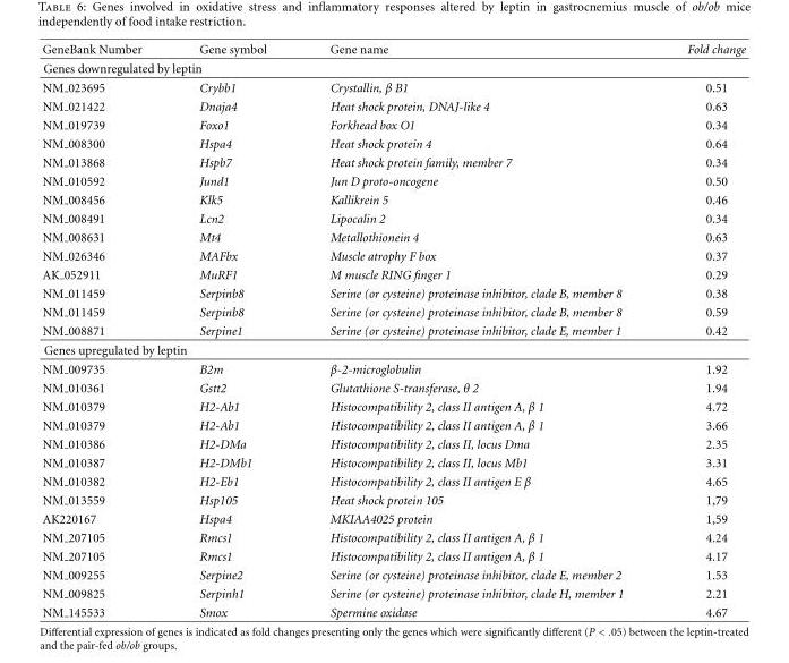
<table><thead><tr><td>GeneBank Number</td><td>Gene symbol</td><td>Gene name</td><td>Fold change</td></tr></thead><tbody><tr><td colspan="4">Genes downregulated by leptin</td></tr><tr><td>NM 023695</td><td>Crybb1</td><td>Crystallin, β B1</td><td>0.51</td></tr><tr><td>NM 021422</td><td>Dnaja4</td><td>Heat shock protein, DNAJ-like 4</td><td>0.63</td></tr><tr><td>NM 019739</td><td>Foxo1</td><td>Forkhead box O1</td><td>0.34</td></tr><tr><td>NM 008300</td><td>Hspa4</td><td>Heat shock protein 4</td><td>0.64</td></tr><tr><td>NM 013868</td><td>Hspb7</td><td>Heat shock protein family, member 7</td><td>0.34</td></tr><tr><td>NM 010592</td><td>Jund1</td><td>Jun D proto-oncogene</td><td>0.50</td></tr><tr><td>NM 008456</td><td>Klk5</td><td>Kallikrein 5</td><td>0.46</td></tr><tr><td>NM 008491</td><td>Lcn2</td><td>Lipocalin 2</td><td>0.34</td></tr><tr><td>NM 008631</td><td>Mt4</td><td>Metallothionein 4</td><td>0.63</td></tr><tr><td>NM 026346</td><td>MAFbx</td><td>Muscle atrophy F box</td><td>0.37</td></tr><tr><td>AK 052911</td><td>MuRF1</td><td>M muscle RING finger 1</td><td>0.29</td></tr><tr><td>NM 011459</td><td>Serpinb8</td><td>Serine (or cysteine) proteinase inhibitor, clade B, member 8</td><td>0.38</td></tr><tr><td>NM 011459</td><td>Serpinb8</td><td>Serine (or cysteine) proteinase inhibitor, clade B, member 8</td><td>0.59</td></tr><tr><td>NM 008871</td><td>Serpine1</td><td>Serine (or cysteine) proteinase inhibitor, clade E, member 1</td><td>0.42</td></tr><tr><td colspan="4">Genes upregulated by leptin</td></tr><tr><td>NM 009735</td><td>B2m</td><td>β-2-microglobulin</td><td>1.92</td></tr><tr><td>NM 010361</td><td>Gstt2</td><td>Glutathione S-transferase, θ 2</td><td>1.94</td></tr><tr><td>NM 010379</td><td>H2-Ab1</td><td>Histocompatibility 2, class II antigen A, β 1</td><td>4.72</td></tr><tr><td>NM 010379</td><td>H2-Ab1</td><td>Histocompatibility 2, class II antigen A, β 1</td><td>3.66</td></tr><tr><td>NM 010386</td><td>H2-DMa</td><td>Histocompatibility 2, class II, locus Dma</td><td>2.35</td></tr><tr><td>NM 010387</td><td>H2-DMb1</td><td>Histocompatibility 2, class II, locus Mb1</td><td>3.31</td></tr><tr><td>NM 010382</td><td>H2-Eb1</td><td>Histocompatibility 2, class II antigen E β</td><td>4.65</td></tr><tr><td>NM 013559</td><td>Hsp105</td><td>Heat shock protein 105</td><td>1,79</td></tr><tr><td>AK220167</td><td>Hspa4</td><td>MKIAA4025 protein</td><td>1,59</td></tr><tr><td>NM 207105</td><td>Rmcs1</td><td>Histocompatibility 2, class II antigen A, β 1</td><td>4.24</td></tr><tr><td>NM 207105</td><td>Rmcs1</td><td>Histocompatibility 2, class II antigen A, β 1</td><td>4.17</td></tr><tr><td>NM 009255</td><td>Serpine2</td><td>Serine (or cysteine) proteinase inhibitor, clade E, member 2</td><td>1.53</td></tr><tr><td>NM 009825</td><td>Serpinh1</td><td>Serine (or cysteine) proteinase inhibitor, clade H, member 1</td><td>2.21</td></tr><tr><td>NM 145533</td><td>Smox</td><td>Spermine oxidase</td><td>4.67</td></tr></tbody></table>